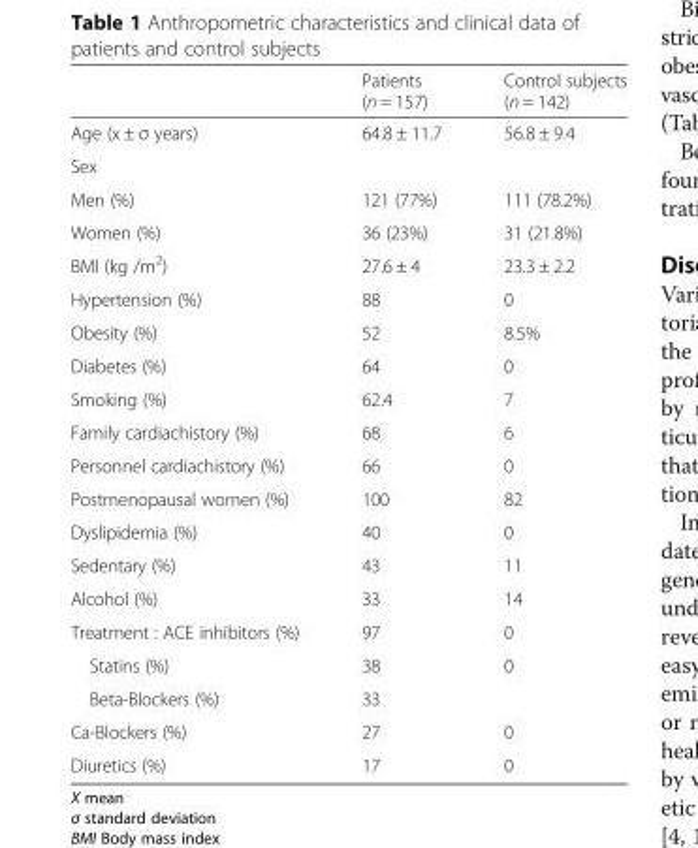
<table><thead><tr><td></td><td>Patients (n = 157)</td><td>Control subjects (n = 142)</td></tr></thead><tbody><tr><td>Age (x ± σ years)</td><td>64.8 ± 11.7</td><td>56.8 ± 9.4</td></tr><tr><td colspan="3">Sex</td></tr><tr><td>Men (%)</td><td>121 (77%)</td><td>111 (78.2%)</td></tr><tr><td>Women (%)</td><td>36 (23%)</td><td>31 (21.8%)</td></tr><tr><td>BMI (kg /m<sup>2</sup>)</td><td>27.6 ± 4</td><td>23.3 ± 2.2</td></tr><tr><td>Hypertension (%)</td><td>88</td><td>0</td></tr><tr><td>Obesity (%)</td><td>52</td><td>8.5%</td></tr><tr><td>Diabetes (%)</td><td>64</td><td>0</td></tr><tr><td>Smoking (%)</td><td>62.4</td><td>7</td></tr><tr><td>Family cardiachistory (%)</td><td>68</td><td>6</td></tr><tr><td>Personnel cardiachistory (%)</td><td>66</td><td>0</td></tr><tr><td>Postmenopausal women (%)</td><td>100</td><td>82</td></tr><tr><td>Dyslipidemia (%)</td><td>40</td><td>0</td></tr><tr><td>Sedentary (%)</td><td>43</td><td>11</td></tr><tr><td>Alcohol (%)</td><td>33</td><td>14</td></tr><tr><td>Treatment : ACE inhibitors (%)</td><td>97</td><td>0</td></tr><tr><td>Statins (%)</td><td>38</td><td>0</td></tr><tr><td>Beta-Blockers (%)</td><td>33</td><td></td></tr><tr><td>Ca-Blockers (%)</td><td>27</td><td>0</td></tr><tr><td>Diuretics (%)</td><td>17</td><td>0</td></tr></tbody></table>